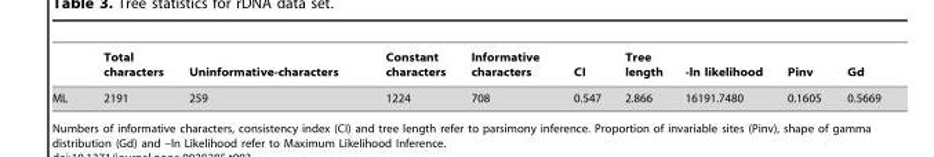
<table><thead><tr><td></td><td>Total characters</td><td>Uninformative-characters</td><td>Constant characters</td><td>Informative characters</td><td>CI</td><td>Tree length</td><td>-ln likelihood</td><td>Pinv</td><td>Gd</td></tr></thead><tbody><tr><td>ML</td><td>2191</td><td>259</td><td>1224</td><td>708</td><td>0.547</td><td>2.866</td><td>16191.7480</td><td>0.1605</td><td>0.5669</td></tr></tbody></table>